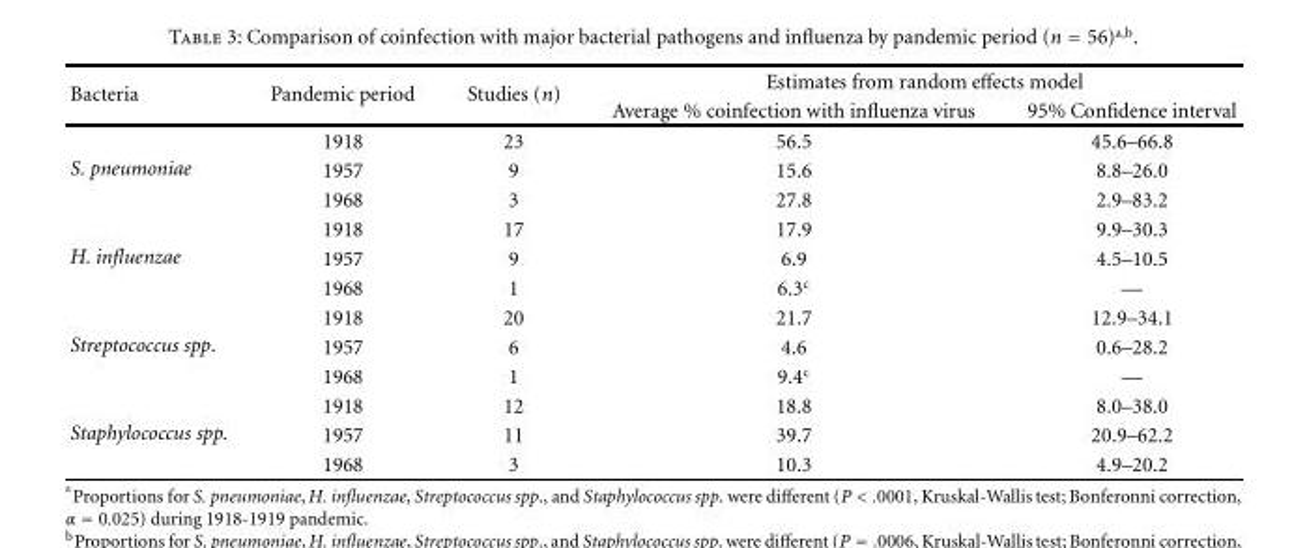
<table><thead><tr><td rowspan="2">Bacteria</td><td rowspan="2">Pandemic period</td><td rowspan="2">Studies (n)</td><td colspan="2">Estimates from random effects model</td></tr><tr><td>Average % coinfection with influenza virus</td><td>95% Confidence interval</td></tr></thead><tbody><tr><td rowspan="3">S. pneumoniae</td><td>1918</td><td>23</td><td>56.5</td><td>45.6–66.8</td></tr><tr><td>1957</td><td>9</td><td>15.6</td><td>8.8–26.0</td></tr><tr><td>1968</td><td>3</td><td>27.8</td><td>2.9–83.2</td></tr><tr><td rowspan="3">H. influenzae</td><td>1918</td><td>17</td><td>17.9</td><td>9.9–30.3</td></tr><tr><td>1957</td><td>9</td><td>6.9</td><td>4.5–10.5</td></tr><tr><td>1968</td><td>1</td><td>6.3<sup>c</sup></td><td>—</td></tr><tr><td rowspan="3">Streptococcus spp.</td><td>1918</td><td>20</td><td>21.7</td><td>12.9–34.1</td></tr><tr><td>1957</td><td>6</td><td>4.6</td><td>0.6–28.2</td></tr><tr><td>1968</td><td>1</td><td>9.4<sup>c</sup></td><td>—</td></tr><tr><td rowspan="3">Staphylococcus spp.</td><td>1918</td><td>12</td><td>18.8</td><td>8.0–38.0</td></tr><tr><td>1957</td><td>11</td><td>39.7</td><td>20.9–62.2</td></tr><tr><td>1968</td><td>3</td><td>10.3</td><td>4.9–20.2</td></tr></tbody></table>